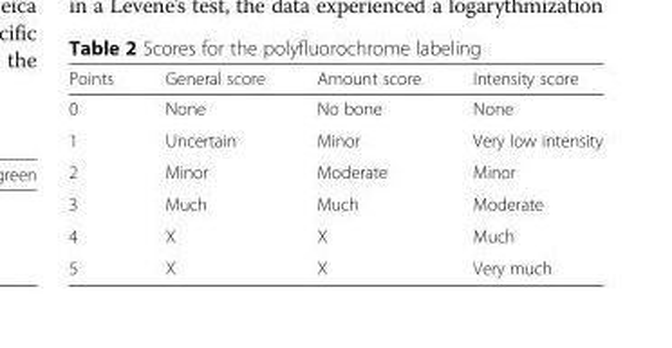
<table><thead><tr><td>Points</td><td>General score</td><td>Amount score</td><td>Intensity score</td></tr></thead><tbody><tr><td>0</td><td>None</td><td>No bone</td><td>None</td></tr><tr><td>1</td><td>Uncertain</td><td>Minor</td><td>Very low intensity</td></tr><tr><td>2</td><td>Minor</td><td>Moderate</td><td>Minor</td></tr><tr><td>3</td><td>Much</td><td>Much</td><td>Moderate</td></tr><tr><td>4</td><td>X</td><td>X</td><td>Much</td></tr><tr><td>5</td><td>X</td><td>X</td><td>Very much</td></tr></tbody></table>